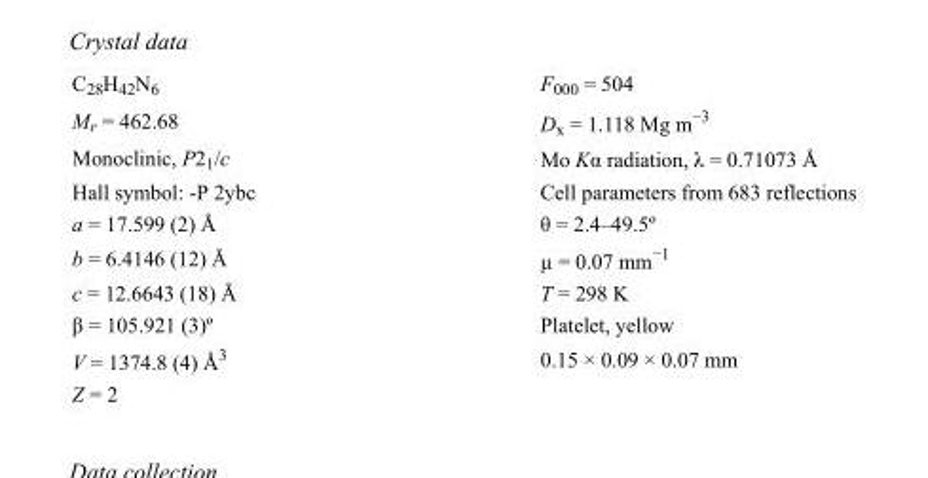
<table><tbody><tr><td>C<sub>28</sub>H<sub>42</sub>N<sub>6</sub></td><td>F000 = 504</td></tr><tr><td>M<sub>r</sub> = 462.68</td><td>D<sub>x</sub> = 1.118 Mg m<sup>−3</sup></td></tr><tr><td>Monoclinic, P2<sub>1</sub>/c</td><td>Mo Kα radiation, λ = 0.71073 Å</td></tr><tr><td>Hall symbol: -P 2ybc</td><td>Cell parameters from 683 reflections</td></tr><tr><td>a = 17.599 (2) Å</td><td>θ = 2.4–49.5º</td></tr><tr><td>b = 6.4146 (12) Å</td><td>µ = 0.07 mm<sup>−1</sup></td></tr><tr><td>c = 12.6643 (18) Å</td><td>T = 298 K</td></tr><tr><td>β = 105.921 (3)º</td><td>Platelet, yellow</td></tr><tr><td>V = 1374.8 (4) Å<sup>3</sup></td><td>0.15 × 0.09 × 0.07 mm</td></tr><tr><td>Z = 2</td><td></td></tr></tbody></table>